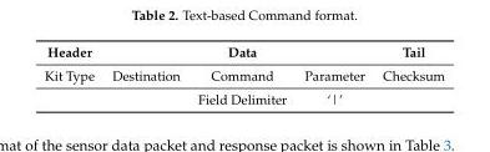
<table><thead><tr><td>Header</td><td></td><td>Data</td><td></td><td>Tail</td></tr></thead><tbody><tr><td rowspan="2">Kit Type</td><td>Destination</td><td>Command</td><td>Parameter</td><td>Checksum</td></tr><tr><td></td><td>Field Delimiter</td><td>‘|’</td><td></td></tr></tbody></table>